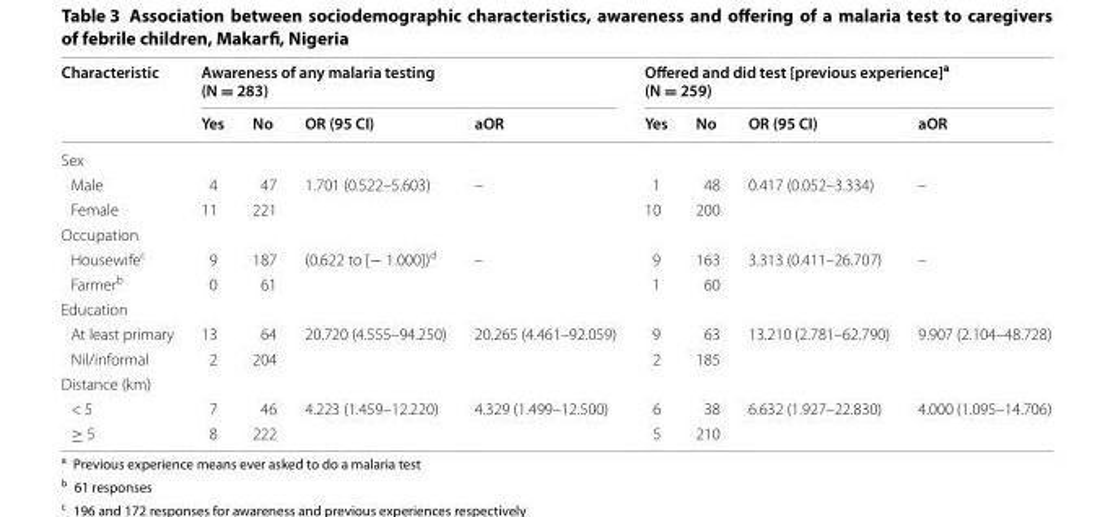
<table><thead><tr><td rowspan="2">Characteristic</td><td colspan="4">Awareness of any malaria testing (N = 283)</td><td colspan="4">Offered and did test [previous experience]<sup>a</sup> (N = 259)</td></tr><tr><td>Yes</td><td>No</td><td>OR (95 CI)</td><td>aOR</td><td>Yes</td><td>No</td><td>OR (95 CI)</td><td>aOR</td></tr></thead><tbody><tr><td colspan="9">Sex</td></tr><tr><td>Male</td><td>4</td><td>47</td><td rowspan="2">1.701 (0.522–5.603)</td><td rowspan="2">–</td><td>1</td><td>48</td><td rowspan="2">0.417 (0.052–3.334)</td><td rowspan="2">–</td></tr><tr><td>Female</td><td>11</td><td>221</td><td>10</td><td>200</td></tr><tr><td colspan="9">Occupation</td></tr><tr><td>Housewife<sup>c</sup></td><td>9</td><td>187</td><td rowspan="2">(0.622 to [− 1.000])<sup>d</sup></td><td rowspan="2">–</td><td>9</td><td>163</td><td rowspan="2">3.313 (0.411–26.707)</td><td rowspan="2">–</td></tr><tr><td>Farmer<sup>b</sup></td><td>0</td><td>61</td><td>1</td><td>60</td></tr><tr><td colspan="9">Education</td></tr><tr><td>At least primary</td><td>13</td><td>64</td><td rowspan="2">20.720 (4.555–94.250)</td><td rowspan="2">20.265 (4.461–92.059)</td><td>9</td><td>63</td><td rowspan="2">13.210 (2.781–62.790)</td><td rowspan="2">9.907 (2.104–48.728)</td></tr><tr><td>Nil/informal</td><td>2</td><td>204</td><td>2</td><td>185</td></tr><tr><td colspan="9">Distance (km)</td></tr><tr><td>&lt; 5</td><td>7</td><td>46</td><td rowspan="2">4.223 (1.459–12.220)</td><td rowspan="2">4.329 (1.499–12.500)</td><td>6</td><td>38</td><td rowspan="2">6.632 (1.927–22.830)</td><td rowspan="2">4.000 (1.095–14.706)</td></tr><tr><td>≥ 5</td><td>8</td><td>222</td><td>5</td><td>210</td></tr></tbody></table>